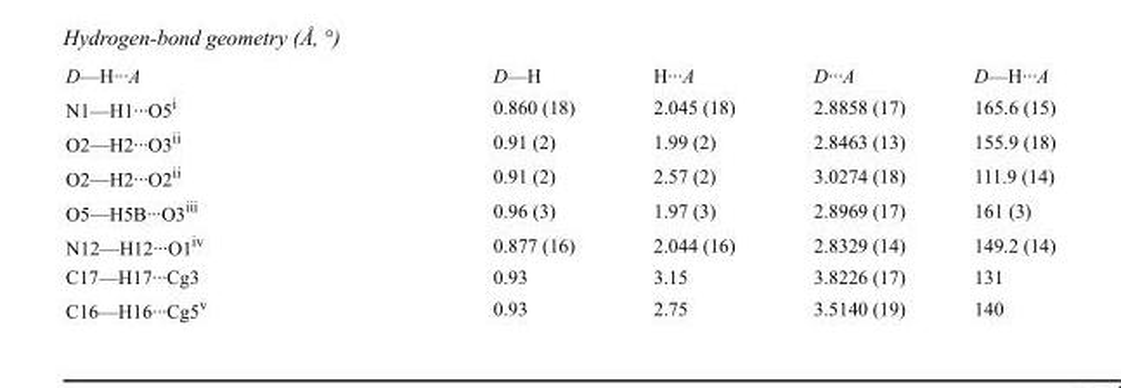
<table><tbody><tr><td>D—H···A</td><td>D—H</td><td>H···A</td><td>D···A</td><td>D—H···A</td></tr><tr><td>N1—H1···O5<sup>i</sup></td><td>0.860 (18)</td><td>2.045 (18)</td><td>2.8858 (17)</td><td>165.6 (15)</td></tr><tr><td>O2—H2···O3<sup>ii</sup></td><td>0.91 (2)</td><td>1.99 (2)</td><td>2.8463 (13)</td><td>155.9 (18)</td></tr><tr><td>O2—H2···O2<sup>ii</sup></td><td>0.91 (2)</td><td>2.57 (2)</td><td>3.0274 (18)</td><td>111.9 (14)</td></tr><tr><td>O5—H5B···O3<sup>iii</sup></td><td>0.96 (3)</td><td>1.97 (3)</td><td>2.8969 (17)</td><td>161 (3)</td></tr><tr><td>N12—H12···O1<sup>iv</sup></td><td>0.877 (16)</td><td>2.044 (16)</td><td>2.8329 (14)</td><td>149.2 (14)</td></tr><tr><td>C17—H17···Cg3</td><td>0.93</td><td>3.15</td><td>3.8226 (17)</td><td>131</td></tr><tr><td>C16—H16···Cg5<sup>v</sup></td><td>0.93</td><td>2.75</td><td>3.5140 (19)</td><td>140</td></tr></tbody></table>